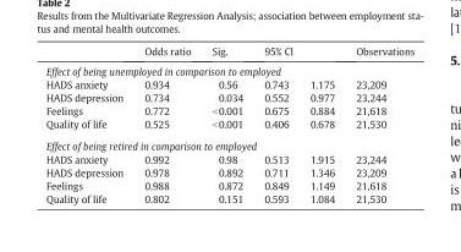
<table><thead><tr><td></td><td>Odds ratio</td><td>Sig.</td><td colspan="2">95% CI</td><td>Observations</td></tr><tr><td colspan="6">Effect of being unemployed in comparison to employed</td></tr><tr><td>HADS anxiety</td><td>0.934</td><td>0.56</td><td>0.743</td><td>1.175</td><td>23,209</td></tr></thead><tbody><tr><td>HADS depression</td><td>0.734</td><td>0.034</td><td>0.552</td><td>0.977</td><td>23,244</td></tr><tr><td>Feelings</td><td>0.772</td><td>&lt;0.001</td><td>0.675</td><td>0.884</td><td>21,618</td></tr><tr><td>Quality of life</td><td>0.525</td><td>&lt;0.001</td><td>0.406</td><td>0.678</td><td>21,530</td></tr><tr><td colspan="6">Effect of being retired in comparison to employed</td></tr><tr><td>HADS anxiety</td><td>0.992</td><td>0.98</td><td>0.513</td><td>1.915</td><td>23,244</td></tr><tr><td>HADS depression</td><td>0.978</td><td>0.892</td><td>0.711</td><td>1.346</td><td>23,209</td></tr><tr><td>Feelings</td><td>0.988</td><td>0.872</td><td>0.849</td><td>1.149</td><td>21,618</td></tr><tr><td>Quality of life</td><td>0.802</td><td>0.151</td><td>0.593</td><td>1.084</td><td>21,530</td></tr></tbody></table>